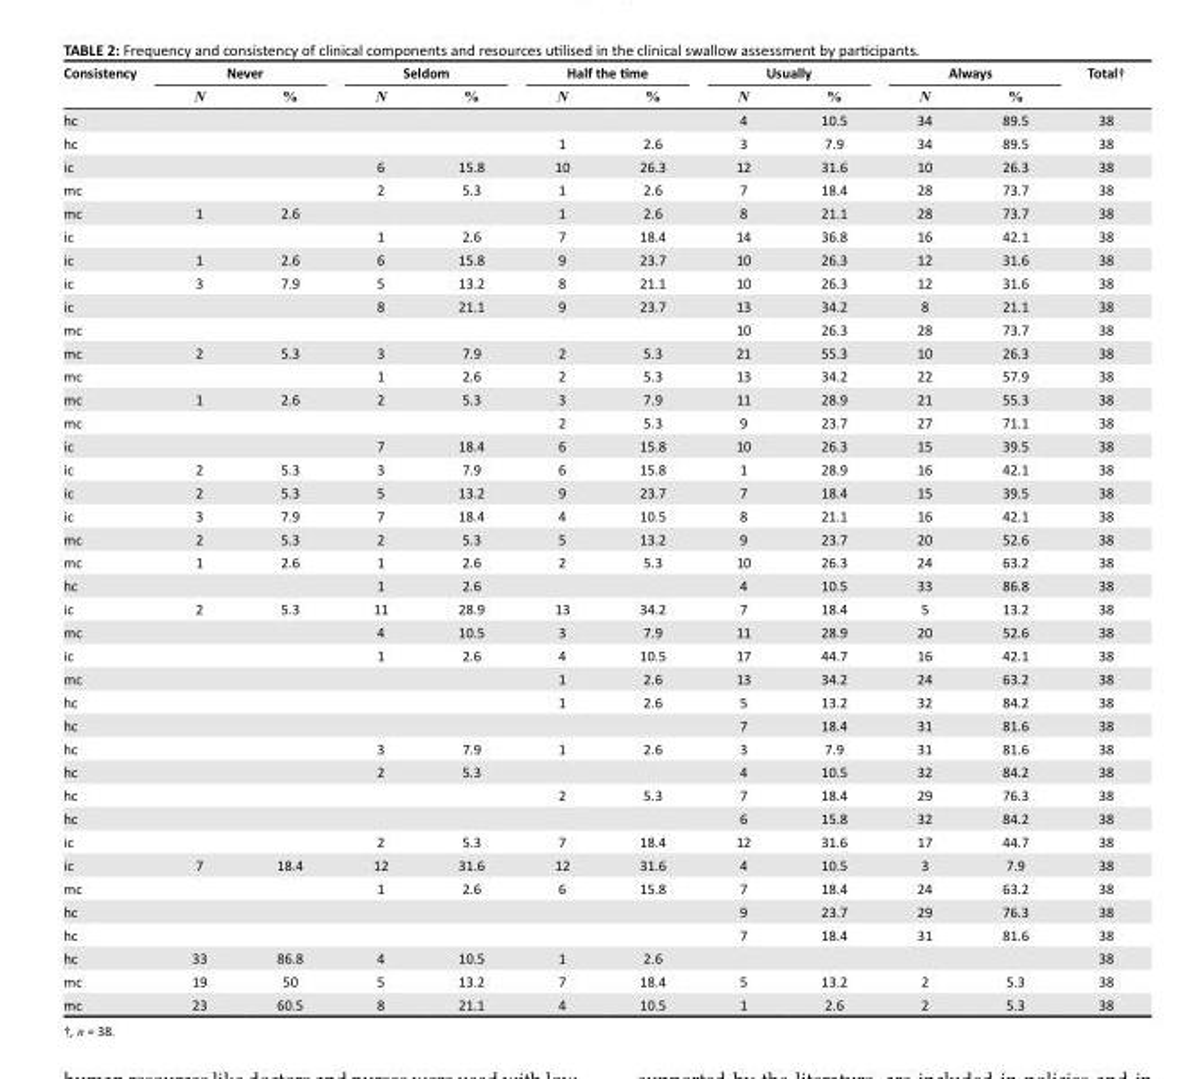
<table><thead><tr><td rowspan="2">Consistency</td><td colspan="2">Never</td><td colspan="2">Seldom</td><td colspan="2">Half the time</td><td colspan="2">Usually</td><td colspan="2">Always</td><td rowspan="2">Total†</td></tr><tr><td>N</td><td>%</td><td>N</td><td>%</td><td>N</td><td>%</td><td>N</td><td>%</td><td>N</td><td>%</td></tr></thead><tbody><tr><td>hc</td><td></td><td></td><td></td><td></td><td></td><td></td><td>4</td><td>10.5</td><td>34</td><td>89.5</td><td>38</td></tr><tr><td>hc</td><td></td><td></td><td></td><td></td><td>1</td><td>2.6</td><td>3</td><td>7.9</td><td>34</td><td>89.5</td><td>38</td></tr><tr><td>ic</td><td></td><td></td><td>6</td><td>15.8</td><td>10</td><td>26.3</td><td>12</td><td>31.6</td><td>10</td><td>26.3</td><td>38</td></tr><tr><td>mc</td><td></td><td></td><td>2</td><td>5.3</td><td>1</td><td>2.6</td><td>7</td><td>18.4</td><td>28</td><td>73.7</td><td>38</td></tr><tr><td>mc</td><td>1</td><td>2.6</td><td></td><td></td><td>1</td><td>2.6</td><td>8</td><td>21.1</td><td>28</td><td>73.7</td><td>38</td></tr><tr><td>ic</td><td></td><td></td><td>1</td><td>2.6</td><td>7</td><td>18.4</td><td>14</td><td>36.8</td><td>16</td><td>42.1</td><td>38</td></tr><tr><td>ic</td><td>1</td><td>2.6</td><td>6</td><td>15.8</td><td>9</td><td>23.7</td><td>10</td><td>26.3</td><td>12</td><td>31.6</td><td>38</td></tr><tr><td>ic</td><td>3</td><td>7.9</td><td>5</td><td>13.2</td><td>8</td><td>21.1</td><td>10</td><td>26.3</td><td>12</td><td>31.6</td><td>38</td></tr><tr><td>ic</td><td></td><td></td><td>8</td><td>21.1</td><td>9</td><td>23.7</td><td>13</td><td>34.2</td><td>8</td><td>21.1</td><td>38</td></tr><tr><td>mc</td><td></td><td></td><td></td><td></td><td></td><td></td><td>10</td><td>26.3</td><td>28</td><td>73.7</td><td>38</td></tr><tr><td>mc</td><td>2</td><td>5.3</td><td>3</td><td>7.9</td><td>2</td><td>5.3</td><td>21</td><td>55.3</td><td>10</td><td>26.3</td><td>38</td></tr><tr><td>mc</td><td></td><td></td><td>1</td><td>2.6</td><td>2</td><td>5.3</td><td>13</td><td>34.2</td><td>22</td><td>57.9</td><td>38</td></tr><tr><td>mc</td><td>1</td><td>2.6</td><td>2</td><td>5.3</td><td>3</td><td>7.9</td><td>11</td><td>28.9</td><td>21</td><td>55.3</td><td>38</td></tr><tr><td>mc</td><td></td><td></td><td></td><td></td><td>2</td><td>5.3</td><td>9</td><td>23.7</td><td>27</td><td>71.1</td><td>38</td></tr><tr><td>ic</td><td></td><td></td><td>7</td><td>18.4</td><td>6</td><td>15.8</td><td>10</td><td>26.3</td><td>15</td><td>39.5</td><td>38</td></tr><tr><td>ic</td><td>2</td><td>5.3</td><td>3</td><td>7.9</td><td>6</td><td>15.8</td><td>1</td><td>28.9</td><td>16</td><td>42.1</td><td>38</td></tr><tr><td>ic</td><td>2</td><td>5.3</td><td>5</td><td>13.2</td><td>9</td><td>23.7</td><td>7</td><td>18.4</td><td>15</td><td>39.5</td><td>38</td></tr><tr><td>ic</td><td>3</td><td>7.9</td><td>7</td><td>18.4</td><td>4</td><td>10.5</td><td>8</td><td>21.1</td><td>16</td><td>42.1</td><td>38</td></tr><tr><td>mc</td><td>2</td><td>5.3</td><td>2</td><td>5.3</td><td>5</td><td>13.2</td><td>9</td><td>23.7</td><td>20</td><td>52.6</td><td>38</td></tr><tr><td>mc</td><td>1</td><td>2.6</td><td>1</td><td>2.6</td><td>2</td><td>5.3</td><td>10</td><td>26.3</td><td>24</td><td>63.2</td><td>38</td></tr><tr><td>hc</td><td></td><td></td><td>1</td><td>2.6</td><td></td><td></td><td>4</td><td>10.5</td><td>33</td><td>86.8</td><td>38</td></tr><tr><td>ic</td><td>2</td><td>5.3</td><td>11</td><td>28.9</td><td>13</td><td>34.2</td><td>7</td><td>18.4</td><td>5</td><td>13.2</td><td>38</td></tr><tr><td>mc</td><td></td><td></td><td>4</td><td>10.5</td><td>3</td><td>7.9</td><td>11</td><td>28.9</td><td>20</td><td>52.6</td><td>38</td></tr><tr><td>ic</td><td></td><td></td><td>1</td><td>2.6</td><td>4</td><td>10.5</td><td>17</td><td>44.7</td><td>16</td><td>42.1</td><td>38</td></tr><tr><td>mc</td><td></td><td></td><td></td><td></td><td>1</td><td>2.6</td><td>13</td><td>34.2</td><td>24</td><td>63.2</td><td>38</td></tr><tr><td>hc</td><td></td><td></td><td></td><td></td><td>1</td><td>2.6</td><td>5</td><td>13.2</td><td>32</td><td>84.2</td><td>38</td></tr><tr><td>hc</td><td></td><td></td><td></td><td></td><td></td><td></td><td>7</td><td>18.4</td><td>31</td><td>81.6</td><td>38</td></tr><tr><td>hc</td><td></td><td></td><td>3</td><td>7.9</td><td>1</td><td>2.6</td><td>3</td><td>7.9</td><td>31</td><td>81.6</td><td>38</td></tr><tr><td>hc</td><td></td><td></td><td>2</td><td>5.3</td><td></td><td></td><td>4</td><td>10.5</td><td>32</td><td>84.2</td><td>38</td></tr><tr><td>hc</td><td></td><td></td><td></td><td></td><td>2</td><td>5.3</td><td>7</td><td>18.4</td><td>29</td><td>76.3</td><td>38</td></tr><tr><td>hc</td><td></td><td></td><td></td><td></td><td></td><td></td><td>6</td><td>15.8</td><td>32</td><td>84.2</td><td>38</td></tr><tr><td>ic</td><td></td><td></td><td>2</td><td>5.3</td><td>7</td><td>18.4</td><td>12</td><td>31.6</td><td>17</td><td>44.7</td><td>38</td></tr><tr><td>ic</td><td>7</td><td>18.4</td><td>12</td><td>31.6</td><td>12</td><td>31.6</td><td>4</td><td>10.5</td><td>3</td><td>7.9</td><td>38</td></tr><tr><td>mc</td><td></td><td></td><td>1</td><td>2.6</td><td>6</td><td>15.8</td><td>7</td><td>18.4</td><td>24</td><td>63.2</td><td>38</td></tr><tr><td>hc</td><td></td><td></td><td></td><td></td><td></td><td></td><td>9</td><td>23.7</td><td>29</td><td>76.3</td><td>38</td></tr><tr><td>hc</td><td></td><td></td><td></td><td></td><td></td><td></td><td>7</td><td>18.4</td><td>31</td><td>81.6</td><td>38</td></tr><tr><td>hc</td><td>33</td><td>86.8</td><td>4</td><td>10.5</td><td>1</td><td>2.6</td><td></td><td></td><td></td><td></td><td>38</td></tr><tr><td>mc</td><td>19</td><td>50</td><td>5</td><td>13.2</td><td>7</td><td>18.4</td><td>5</td><td>13.2</td><td>2</td><td>5.3</td><td>38</td></tr><tr><td>mc</td><td>23</td><td>60.5</td><td>8</td><td>21.1</td><td>4</td><td>10.5</td><td>1</td><td>2.6</td><td>2</td><td>5.3</td><td>38</td></tr></tbody></table>